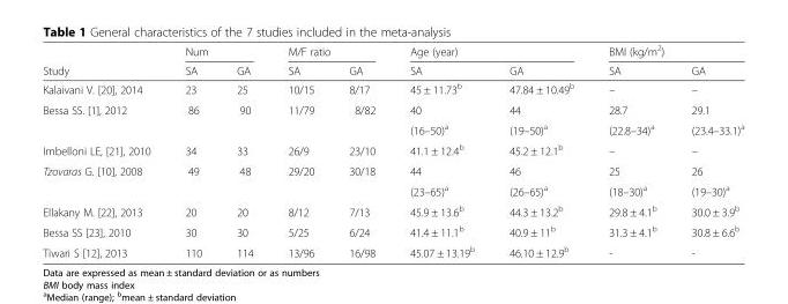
<table><thead><tr><td rowspan="2">Study</td><td colspan="2">Num</td><td colspan="2">M/F ratio</td><td colspan="2">Age (year)</td><td colspan="2">BMI (kg/m<sup>2</sup>)</td></tr><tr><td>SA</td><td>GA</td><td>SA</td><td>GA</td><td>SA</td><td>GA</td><td>SA</td><td>GA</td></tr></thead><tbody><tr><td>Kalaivani V. [20], 2014</td><td>23</td><td>25</td><td>10/15</td><td>8/17</td><td>45 ± 11.73<sup>b</sup></td><td>47.84 ± 10.49<sup>b</sup></td><td>–</td><td>–</td></tr><tr><td rowspan="2">Bessa SS. [1], 2012</td><td rowspan="2">86</td><td rowspan="2">90</td><td rowspan="2">11/79</td><td rowspan="2">8/82</td><td>40</td><td>44</td><td>28.7</td><td>29.1</td></tr><tr><td>(16–50)<sup>a</sup></td><td>(19–50)<sup>a</sup></td><td>(22.8–34)<sup>a</sup></td><td>(23.4–33.1)<sup>a</sup></td></tr><tr><td>Imbelloni LE, [21], 2010</td><td>34</td><td>33</td><td>26/9</td><td>23/10</td><td>41.1 ± 12.4<sup>b</sup></td><td>45.2 ± 12.1<sup>b</sup></td><td>–</td><td>–</td></tr><tr><td rowspan="2">Tzovaras G. [10], 2008</td><td rowspan="2">49</td><td rowspan="2">48</td><td rowspan="2">29/20</td><td rowspan="2">30/18</td><td>44</td><td>46</td><td>25</td><td>26</td></tr><tr><td>(23–65)<sup>a</sup></td><td>(26–65)<sup>a</sup></td><td>(18–30)<sup>a</sup></td><td>(19–30)<sup>a</sup></td></tr><tr><td>Ellakany M. [22], 2013</td><td>20</td><td>20</td><td>8/12</td><td>7/13</td><td>45.9 ± 13.6<sup>b</sup></td><td>44.3 ± 13.2<sup>b</sup></td><td>29.8 ± 4.1<sup>b</sup></td><td>30.0 ± 3.9<sup>b</sup></td></tr><tr><td>Bessa SS [23], 2010</td><td>30</td><td>30</td><td>5/25</td><td>6/24</td><td>41.4 ± 11.1<sup>b</sup></td><td>40.9 ± 11<sup>b</sup></td><td>31.3 ± 4.1<sup>b</sup></td><td>30.8 ± 6.6<sup>b</sup></td></tr><tr><td>Tiwari S [12], 2013</td><td>110</td><td>114</td><td>13/96</td><td>16/98</td><td>45.07 ± 13.19<sup>b</sup></td><td>46.10 ± 12.9<sup>b</sup></td><td>-</td><td>-</td></tr></tbody></table>